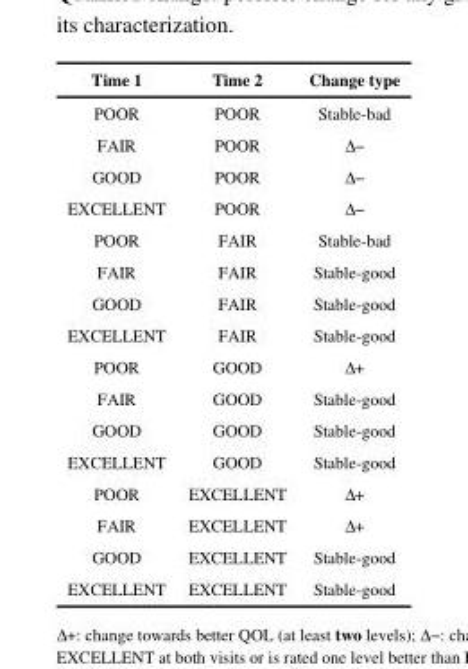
<table><thead><tr><td>Time 1</td><td>Time 2</td><td>Change type</td></tr></thead><tbody><tr><td>POOR</td><td>POOR</td><td>Stable-bad</td></tr><tr><td>FAIR</td><td>POOR</td><td>Δ−</td></tr><tr><td>GOOD</td><td>POOR</td><td>Δ−</td></tr><tr><td>EXCELLENT</td><td>POOR</td><td>Δ−</td></tr><tr><td>POOR</td><td>FAIR</td><td>Stable-bad</td></tr><tr><td>FAIR</td><td>FAIR</td><td>Stable-good</td></tr><tr><td>GOOD</td><td>FAIR</td><td>Stable-good</td></tr><tr><td>EXCELLENT</td><td>FAIR</td><td>Stable-good</td></tr><tr><td>POOR</td><td>GOOD</td><td>Δ+</td></tr><tr><td>FAIR</td><td>GOOD</td><td>Stable-good</td></tr><tr><td>GOOD</td><td>GOOD</td><td>Stable-good</td></tr><tr><td>EXCELLENT</td><td>GOOD</td><td>Stable-good</td></tr><tr><td>POOR</td><td>EXCELLENT</td><td>Δ+</td></tr><tr><td>FAIR</td><td>EXCELLENT</td><td>Δ+</td></tr><tr><td>GOOD</td><td>EXCELLENT</td><td>Stable-good</td></tr><tr><td>EXCELLENT</td><td>EXCELLENT</td><td>Stable-good</td></tr></tbody></table>